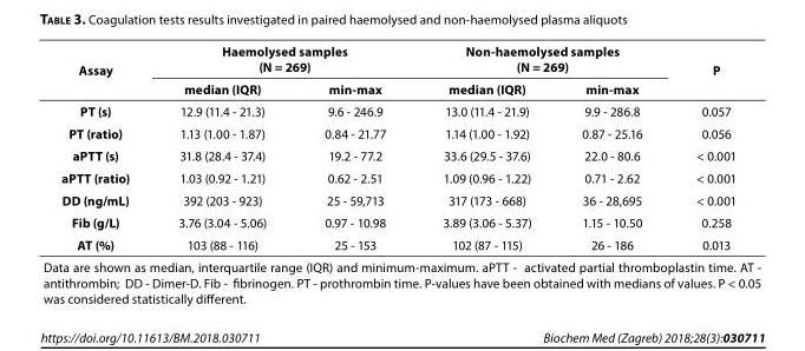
<table><thead><tr><td rowspan="2">Assay</td><td colspan="2">Haemolysed samples (N = 269)</td><td colspan="2">Non-haemolysed samples (N = 269)</td><td rowspan="2">P</td></tr><tr><td>median (IQR)</td><td>min-max</td><td>median (IQR)</td><td>min-max</td></tr></thead><tbody><tr><td>PT (s)</td><td>12.9 (11.4 - 21.3)</td><td>9.6 - 246.9</td><td>13.0 (11.4 - 21.9)</td><td>9.9 - 286.8</td><td>0.057</td></tr><tr><td>PT (ratio)</td><td>1.13 (1.00 - 1.87)</td><td>0.84 - 21.77</td><td>1.14 (1.00 - 1.92)</td><td>0.87 - 25.16</td><td>0.056</td></tr><tr><td>aPTT (s)</td><td>31.8 (28.4 - 37.4)</td><td>19.2 - 77.2</td><td>33.6 (29.5 - 37.6)</td><td>22.0 - 80.6</td><td>&lt; 0.001</td></tr><tr><td>aPTT (ratio)</td><td>1.03 (0.92 - 1.21)</td><td>0.62 - 2.51</td><td>1.09 (0.96 - 1.22)</td><td>0.71 - 2.62</td><td>&lt; 0.001</td></tr><tr><td>DD (ng/mL)</td><td>392 (203 - 923)</td><td>25 - 59,713</td><td>317 (173 - 668)</td><td>36 - 28,695</td><td>&lt; 0.001</td></tr><tr><td>Fib (g/L)</td><td>3.76 (3.04 - 5.06)</td><td>0.97 - 10.98</td><td>3.89 (3.06 - 5.37)</td><td>1.15 - 10.50</td><td>0.258</td></tr><tr><td>AT (%)</td><td>103 (88 - 116)</td><td>25 - 153</td><td>102 (87 - 115)</td><td>26 - 186</td><td>0.013</td></tr><tr><td colspan="6">Data are shown as median, interquartile range (IQR) and minimum-maximum. aPTT - activated partial thromboplastin time. AT - antithrombin; DD - Dimer-D. Fib - fibrinogen. PT - prothrombin time. P-values have been obtained with medians of values. P &lt; 0.05 was considered statistically different.</td></tr></tbody></table>